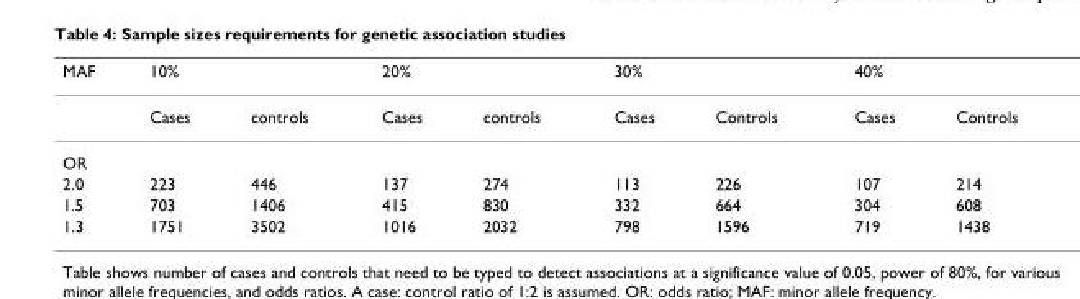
<table><thead><tr><td rowspan="2">MAF</td><td colspan="2">10%</td><td colspan="2">20%</td><td colspan="2">30%</td><td colspan="2">40%</td></tr><tr><td>Cases</td><td>controls</td><td>Cases</td><td>controls</td><td>Cases</td><td>Controls</td><td>Cases</td><td>Controls</td></tr></thead><tbody><tr><td colspan="9">OR</td></tr><tr><td>2.0</td><td>223</td><td>446</td><td>137</td><td>274</td><td>113</td><td>226</td><td>107</td><td>214</td></tr><tr><td>1.5</td><td>703</td><td>1406</td><td>415</td><td>830</td><td>332</td><td>664</td><td>304</td><td>608</td></tr><tr><td>1.3</td><td>1751</td><td>3502</td><td>1016</td><td>2032</td><td>798</td><td>1596</td><td>719</td><td>1438</td></tr></tbody></table>